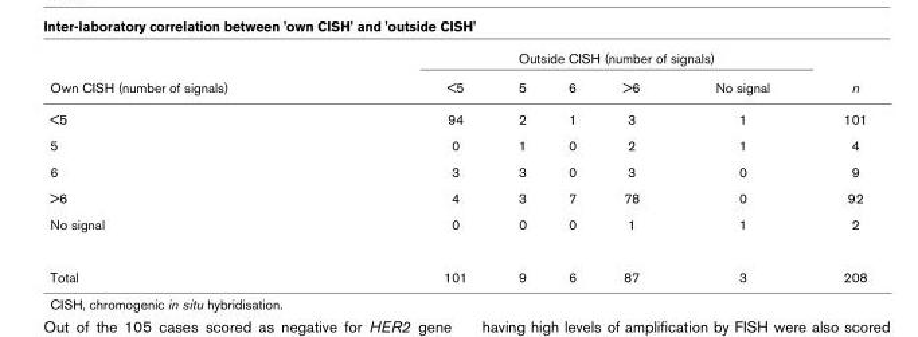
<table><thead><tr><td rowspan="2">Own CISH (number of signals)</td><td colspan="5">Outside CISH (number of signals)</td><td rowspan="2">n</td></tr><tr><td>&lt;5</td><td>5</td><td>6</td><td>&gt;6</td><td>No signal</td></tr></thead><tbody><tr><td>&lt;5</td><td>94</td><td>2</td><td>1</td><td>3</td><td>1</td><td>101</td></tr><tr><td>5</td><td>0</td><td>1</td><td>0</td><td>2</td><td>1</td><td>4</td></tr><tr><td>6</td><td>3</td><td>3</td><td>0</td><td>3</td><td>0</td><td>9</td></tr><tr><td>&gt;6</td><td>4</td><td>3</td><td>7</td><td>78</td><td>0</td><td>92</td></tr><tr><td>No signal</td><td>0</td><td>0</td><td>0</td><td>1</td><td>1</td><td>2</td></tr><tr><td>Total</td><td>101</td><td>9</td><td>6</td><td>87</td><td>3</td><td>208</td></tr></tbody></table>